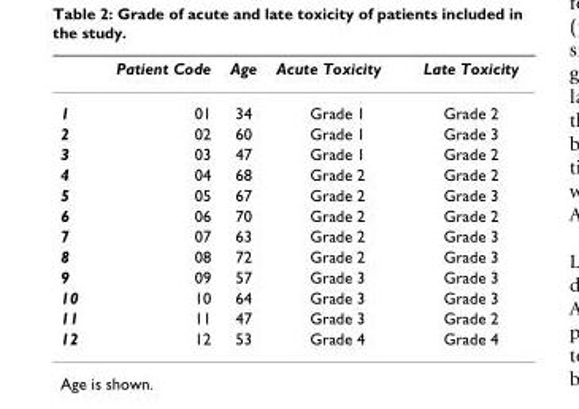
<table><thead><tr><td></td><td>Patient Code</td><td>Age</td><td>Acute Toxicity</td><td>Late Toxicity</td></tr></thead><tbody><tr><td>1</td><td>01</td><td>34</td><td>Grade 1</td><td>Grade 2</td></tr><tr><td>2</td><td>02</td><td>60</td><td>Grade 1</td><td>Grade 3</td></tr><tr><td>3</td><td>03</td><td>47</td><td>Grade 1</td><td>Grade 2</td></tr><tr><td>4</td><td>04</td><td>68</td><td>Grade 2</td><td>Grade 2</td></tr><tr><td>5</td><td>05</td><td>67</td><td>Grade 2</td><td>Grade 3</td></tr><tr><td>6</td><td>06</td><td>70</td><td>Grade 2</td><td>Grade 2</td></tr><tr><td>7</td><td>07</td><td>63</td><td>Grade 2</td><td>Grade 3</td></tr><tr><td>8</td><td>08</td><td>72</td><td>Grade 2</td><td>Grade 3</td></tr><tr><td>9</td><td>09</td><td>57</td><td>Grade 3</td><td>Grade 3</td></tr><tr><td>10</td><td>10</td><td>64</td><td>Grade 3</td><td>Grade 3</td></tr><tr><td>11</td><td>11</td><td>47</td><td>Grade 3</td><td>Grade 2</td></tr><tr><td>12</td><td>12</td><td>53</td><td>Grade 4</td><td>Grade 4</td></tr></tbody></table>